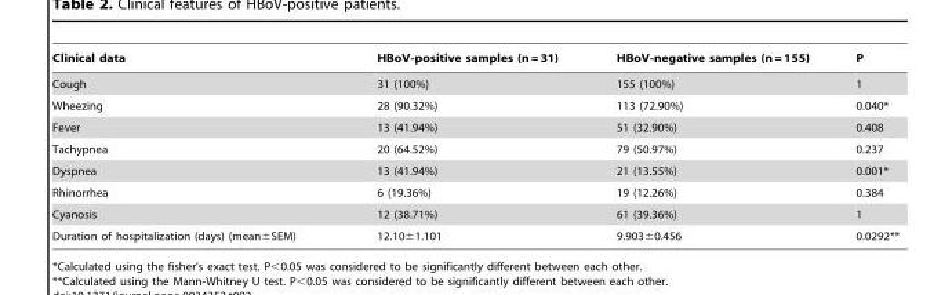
<table><thead><tr><td>Clinical data</td><td>HBoV-positive samples (n = 31)</td><td>HBoV-negative samples (n = 155)</td><td>P</td></tr></thead><tbody><tr><td>Cough</td><td>31 (100%)</td><td>155 (100%)</td><td>1</td></tr><tr><td>Wheezing</td><td>28 (90.32%)</td><td>113 (72.90%)</td><td>0.040*</td></tr><tr><td>Fever</td><td>13 (41.94%)</td><td>51 (32.90%)</td><td>0.408</td></tr><tr><td>Tachypnea</td><td>20 (64.52%)</td><td>79 (50.97%)</td><td>0.237</td></tr><tr><td>Dyspnea</td><td>13 (41.94%)</td><td>21 (13.55%)</td><td>0.001*</td></tr><tr><td>Rhinorrhea</td><td>6 (19.36%)</td><td>19 (12.26%)</td><td>0.384</td></tr><tr><td>Cyanosis</td><td>12 (38.71%)</td><td>61 (39.36%)</td><td>1</td></tr><tr><td>Duration of hospitalization (days) (mean±SEM)</td><td>12.10±1.101</td><td>9.903±0.456</td><td>0.0292**</td></tr></tbody></table>